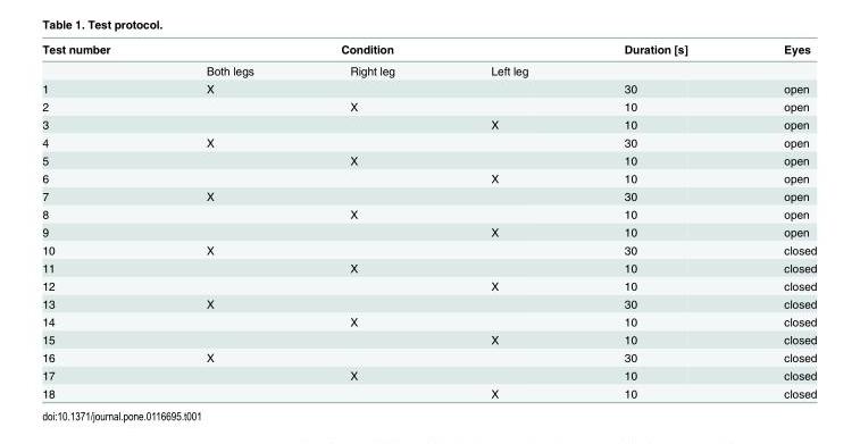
<table><thead><tr><td rowspan="2">Test number</td><td colspan="3">Condition</td><td rowspan="2">Duration [s]</td><td rowspan="2">Eyes</td></tr><tr><td>Both legs</td><td>Right leg</td><td>Left leg</td></tr></thead><tbody><tr><td>1</td><td>X</td><td></td><td></td><td>30</td><td>open</td></tr><tr><td>2</td><td></td><td>X</td><td></td><td>10</td><td>open</td></tr><tr><td>3</td><td></td><td></td><td>X</td><td>10</td><td>open</td></tr><tr><td>4</td><td>X</td><td></td><td></td><td>30</td><td>open</td></tr><tr><td>5</td><td></td><td>X</td><td></td><td>10</td><td>open</td></tr><tr><td>6</td><td></td><td></td><td>X</td><td>10</td><td>open</td></tr><tr><td>7</td><td>X</td><td></td><td></td><td>30</td><td>open</td></tr><tr><td>8</td><td></td><td>X</td><td></td><td>10</td><td>open</td></tr><tr><td>9</td><td></td><td></td><td>X</td><td>10</td><td>open</td></tr><tr><td>10</td><td>X</td><td></td><td></td><td>30</td><td>closed</td></tr><tr><td>11</td><td></td><td>X</td><td></td><td>10</td><td>closed</td></tr><tr><td>12</td><td></td><td></td><td>X</td><td>10</td><td>closed</td></tr><tr><td>13</td><td>X</td><td></td><td></td><td>30</td><td>closed</td></tr><tr><td>14</td><td></td><td>X</td><td></td><td>10</td><td>closed</td></tr><tr><td>15</td><td></td><td></td><td>X</td><td>10</td><td>closed</td></tr><tr><td>16</td><td>X</td><td></td><td></td><td>30</td><td>closed</td></tr><tr><td>17</td><td></td><td>X</td><td></td><td>10</td><td>closed</td></tr><tr><td>18</td><td></td><td></td><td>X</td><td>10</td><td>closed</td></tr></tbody></table>